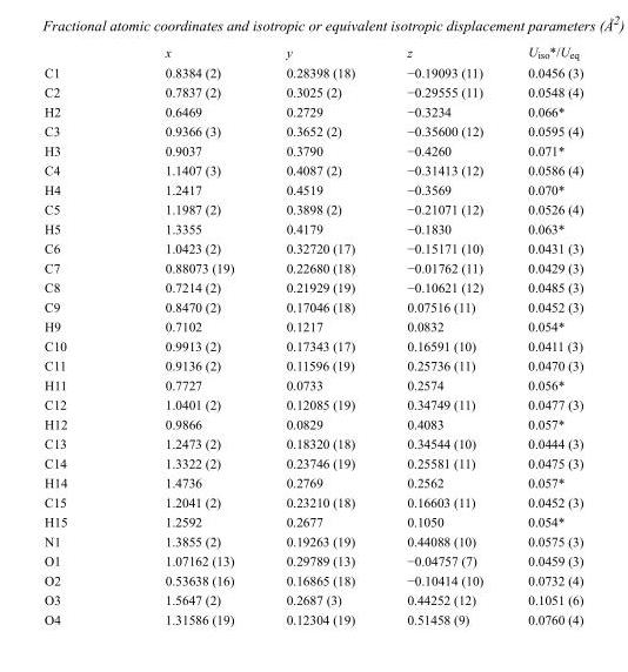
<table><thead><tr><td></td><td>x</td><td>y</td><td>z</td><td>U<sub>iso</sub>*/U<sub>eq</sub></td></tr></thead><tbody><tr><td>C1</td><td>0.8384 (2)</td><td>0.28398 (18)</td><td>−0.19093 (11)</td><td>0.0456 (3)</td></tr><tr><td>C2</td><td>0.7837 (2)</td><td>0.3025 (2)</td><td>−0.29555 (11)</td><td>0.0548 (4)</td></tr><tr><td>H2</td><td>0.6469</td><td>0.2729</td><td>−0.3234</td><td>0.066*</td></tr><tr><td>C3</td><td>0.9366 (3)</td><td>0.3652 (2)</td><td>−0.35600 (12)</td><td>0.0595 (4)</td></tr><tr><td>H3</td><td>0.9037</td><td>0.3790</td><td>−0.4260</td><td>0.071*</td></tr><tr><td>C4</td><td>1.1407 (3)</td><td>0.4087 (2)</td><td>−0.31413 (12)</td><td>0.0586 (4)</td></tr><tr><td>H4</td><td>1.2417</td><td>0.4519</td><td>−0.3569</td><td>0.070*</td></tr><tr><td>C5</td><td>1.1987 (2)</td><td>0.3898 (2)</td><td>−0.21071 (12)</td><td>0.0526 (4)</td></tr><tr><td>H5</td><td>1.3355</td><td>0.4179</td><td>−0.1830</td><td>0.063*</td></tr><tr><td>C6</td><td>1.0423 (2)</td><td>0.32720 (17)</td><td>−0.15171 (10)</td><td>0.0431 (3)</td></tr><tr><td>C7</td><td>0.88073 (19)</td><td>0.22680 (18)</td><td>−0.01762 (11)</td><td>0.0429 (3)</td></tr><tr><td>C8</td><td>0.7214 (2)</td><td>0.21929 (19)</td><td>−0.10621 (12)</td><td>0.0485 (3)</td></tr><tr><td>C9</td><td>0.8470 (2)</td><td>0.17046 (18)</td><td>0.07516 (11)</td><td>0.0452 (3)</td></tr><tr><td>H9</td><td>0.7102</td><td>0.1217</td><td>0.0832</td><td>0.054*</td></tr><tr><td>C10</td><td>0.9913 (2)</td><td>0.17343 (17)</td><td>0.16591 (10)</td><td>0.0411 (3)</td></tr><tr><td>C11</td><td>0.9136 (2)</td><td>0.11596 (19)</td><td>0.25736 (11)</td><td>0.0470 (3)</td></tr><tr><td>H11</td><td>0.7727</td><td>0.0733</td><td>0.2574</td><td>0.056*</td></tr><tr><td>C12</td><td>1.0401 (2)</td><td>0.12085 (19)</td><td>0.34749 (11)</td><td>0.0477 (3)</td></tr><tr><td>H12</td><td>0.9866</td><td>0.0829</td><td>0.4083</td><td>0.057*</td></tr><tr><td>C13</td><td>1.2473 (2)</td><td>0.18320 (18)</td><td>0.34544 (10)</td><td>0.0444 (3)</td></tr><tr><td>C14</td><td>1.3322 (2)</td><td>0.23746 (19)</td><td>0.25581 (11)</td><td>0.0475 (3)</td></tr><tr><td>H14</td><td>1.4736</td><td>0.2769</td><td>0.2562</td><td>0.057*</td></tr><tr><td>C15</td><td>1.2041 (2)</td><td>0.23210 (18)</td><td>0.16603 (11)</td><td>0.0452 (3)</td></tr><tr><td>H15</td><td>1.2592</td><td>0.2677</td><td>0.1050</td><td>0.054*</td></tr><tr><td>N1</td><td>1.3855 (2)</td><td>0.19263 (19)</td><td>0.44088 (10)</td><td>0.0575 (3)</td></tr><tr><td>O1</td><td>1.07162 (13)</td><td>0.29789 (13)</td><td>−0.04757 (7)</td><td>0.0459 (3)</td></tr><tr><td>O2</td><td>0.53638 (16)</td><td>0.16865 (18)</td><td>−0.10414 (10)</td><td>0.0732 (4)</td></tr><tr><td>O3</td><td>1.5647 (2)</td><td>0.2687 (3)</td><td>0.44252 (12)</td><td>0.1051 (6)</td></tr><tr><td>O4</td><td>1.31586 (19)</td><td>0.12304 (19)</td><td>0.51458 (9)</td><td>0.0760 (4)</td></tr></tbody></table>